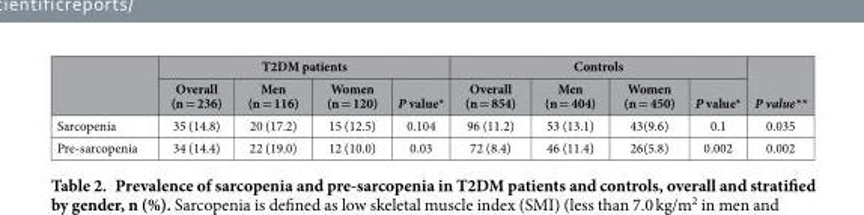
<table><thead><tr><td rowspan="2"></td><td colspan="4">T2DM patients</td><td colspan="4">Controls</td><td rowspan="2">P value**</td></tr><tr><td>Overall (n = 236)</td><td>Men (n = 116)</td><td>Women (n = 120)</td><td>P value*</td><td>Overall (n = 854)</td><td>Men (n = 404)</td><td>Women (n = 450)</td><td>P value*</td></tr></thead><tbody><tr><td>Sarcopenia</td><td>35 (14.8)</td><td>20 (17.2)</td><td>15 (12.5)</td><td>0.104</td><td>96 (11.2)</td><td>53 (13.1)</td><td>43(9.6)</td><td>0.1</td><td>0.035</td></tr><tr><td>Pre-sarcopenia</td><td>34 (14.4)</td><td>22 (19.0)</td><td>12 (10.0)</td><td>0.03</td><td>72 (8.4)</td><td>46 (11.4)</td><td>26(5.8)</td><td>0.002</td><td>0.002</td></tr></tbody></table>